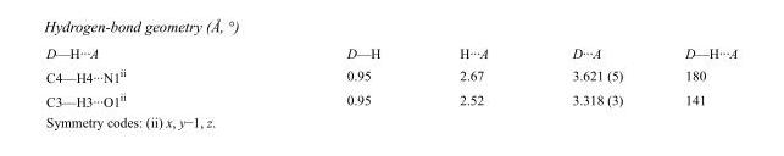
<table><tbody><tr><td>D—H···A</td><td>D—H</td><td>H···A</td><td>D···A</td><td>D—H···A</td></tr><tr><td>C4—H4···N1<sup>ii</sup></td><td>0.95</td><td>2.67</td><td>3.621 (5)</td><td>180</td></tr><tr><td>C3—H3···O1<sup>ii</sup></td><td>0.95</td><td>2.52</td><td>3.318 (3)</td><td>141</td></tr></tbody></table>